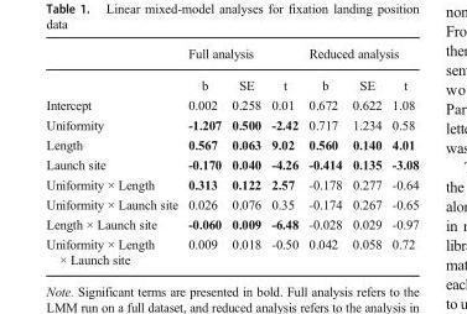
<table><thead><tr><td rowspan="2"></td><td colspan="3">Full analysis</td><td colspan="3">Reduced analysis</td></tr><tr><td>b</td><td>SE</td><td>t</td><td>b</td><td>SE</td><td>t</td></tr></thead><tbody><tr><td>Intercept</td><td>0.002</td><td>0.258</td><td>0.01</td><td>0.672</td><td>0.622</td><td>1.08</td></tr><tr><td>Uniformity</td><td>-1.207</td><td>0.500</td><td>-2.42</td><td>0.717</td><td>1.234</td><td>0.58</td></tr><tr><td>Length</td><td>0.567</td><td>0.063</td><td>9.02</td><td>0.560</td><td>0.140</td><td>4.01</td></tr><tr><td>Launch site</td><td>-0.170</td><td>0.040</td><td>-4.26</td><td>-0.414</td><td>0.135</td><td>-3.08</td></tr><tr><td>Uniformity × Length</td><td>0.313</td><td>0.122</td><td>2.57</td><td>-0.178</td><td>0.277</td><td>-0.64</td></tr><tr><td>Uniformity × Launch site</td><td>0.026</td><td>0.076</td><td>0.35</td><td>-0.174</td><td>0.267</td><td>-0.65</td></tr><tr><td>Length × Launch site</td><td>-0.060</td><td>0.009</td><td>-6.48</td><td>-0.028</td><td>0.029</td><td>-0.97</td></tr><tr><td>Uniformity × Length × Launch site</td><td>0.009</td><td>0.018</td><td>-0.50</td><td>0.042</td><td>0.058</td><td>0.72</td></tr></tbody></table>